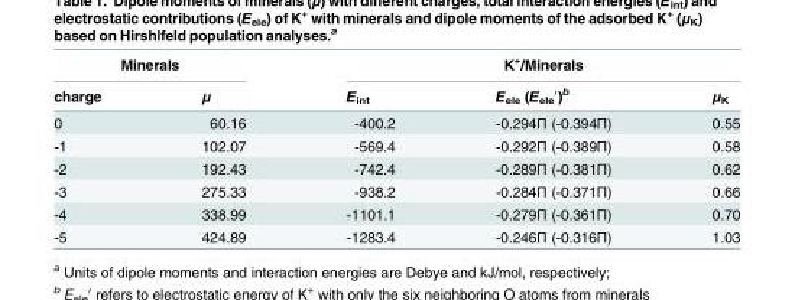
<table><thead><tr><td colspan="2">Minerals</td><td colspan="3">K<sup>+</sup>/Minerals</td></tr><tr><td>charge</td><td>μ</td><td>E<sub>int</sub></td><td>E<sub>ele</sub> (E<sub>ele</sub>′)<sup>b</sup></td><td>μ<sub>K</sub></td></tr></thead><tbody><tr><td>0</td><td>60.16</td><td>-400.2</td><td>-0.294Π (-0.394Π)</td><td>0.55</td></tr><tr><td>-1</td><td>102.07</td><td>-569.4</td><td>-0.292Π (-0.389Π)</td><td>0.58</td></tr><tr><td>-2</td><td>192.43</td><td>-742.4</td><td>-0.289Π (-0.381Π)</td><td>0.62</td></tr><tr><td>-3</td><td>275.33</td><td>-938.2</td><td>-0.284Π (-0.371Π)</td><td>0.66</td></tr><tr><td>-4</td><td>338.99</td><td>-1101.1</td><td>-0.279Π (-0.361Π)</td><td>0.70</td></tr><tr><td>-5</td><td>424.89</td><td>-1283.4</td><td>-0.246Π (-0.316Π)</td><td>1.03</td></tr></tbody></table>